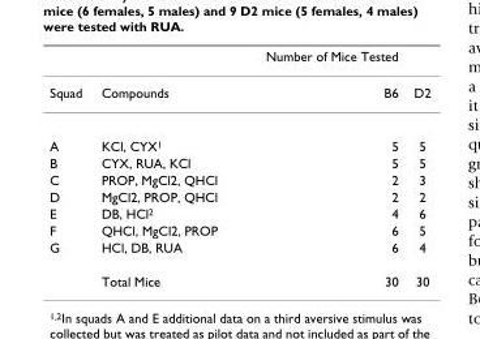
<table><thead><tr><td></td><td></td><td>Number of Mice Tested</td><td></td></tr></thead><tbody><tr><td>Squad</td><td>Compounds</td><td>B6</td><td>D2</td></tr><tr><td>A</td><td>KCl, CYX<sup>1</sup></td><td>5</td><td>5</td></tr><tr><td>B</td><td>CYX, RUA, KCl</td><td>5</td><td>5</td></tr><tr><td>C</td><td>PROP, MgCl2, QHCl</td><td>2</td><td>3</td></tr><tr><td>D</td><td>MgCl2, PROP, QHCl</td><td>2</td><td>2</td></tr><tr><td>E</td><td>DB, HCl<sup>2</sup></td><td>4</td><td>6</td></tr><tr><td>F</td><td>QHCl, MgCl2, PROP</td><td>6</td><td>5</td></tr><tr><td rowspan="2">G</td><td>HCl, DB, RUA</td><td>6</td><td>4</td></tr><tr><td>Total Mice</td><td>30</td><td>30</td></tr></tbody></table>